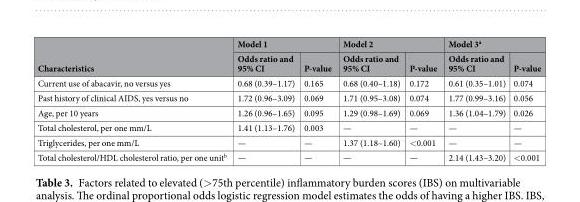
<table><thead><tr><td rowspan="2">Characteristics</td><td colspan="2">Model 1</td><td colspan="2">Model 2</td><td colspan="2">Model 3<sup>a</sup></td></tr><tr><td>Odds ratio and 95% CI</td><td>P-value</td><td>Odds ratio and 95% CI</td><td>P-value</td><td>Odds ratio and 95% CI</td><td>P-value</td></tr></thead><tbody><tr><td>Current use of abacavir, no versus yes</td><td>0.68 (0.39–1.17)</td><td>0.165</td><td>0.68 (0.40–1.18)</td><td>0.172</td><td>0.61 (0.35–1.01)</td><td>0.074</td></tr><tr><td>Past history of clinical AIDS, yes versus no</td><td>1.72 (0.96–3.09)</td><td>0.069</td><td>1.71 (0.95–3.08)</td><td>0.074</td><td>1.77 (0.99–3.16)</td><td>0.056</td></tr><tr><td>Age, per 10 years</td><td>1.26 (0.96–1.65)</td><td>0.095</td><td>1.29 (0.98–1.69)</td><td>0.069</td><td>1.36 (1.04–1.79)</td><td>0.026</td></tr><tr><td>Total cholesterol, per one mm/L</td><td>1.41 (1.13–1.76)</td><td>0.003</td><td>—</td><td>—</td><td>—</td><td>—</td></tr><tr><td>Triglycerides, per one mm/L</td><td>—</td><td>—</td><td>1.37 (1.18–1.60)</td><td>&lt;0.001</td><td>—</td><td>—</td></tr><tr><td>Total cholesterol/HDL cholesterol ratio, per one unit<sup>b</sup></td><td>—</td><td>—</td><td>—</td><td>—</td><td>2.14 (1.43–3.20)</td><td>&lt;0.001</td></tr></tbody></table>